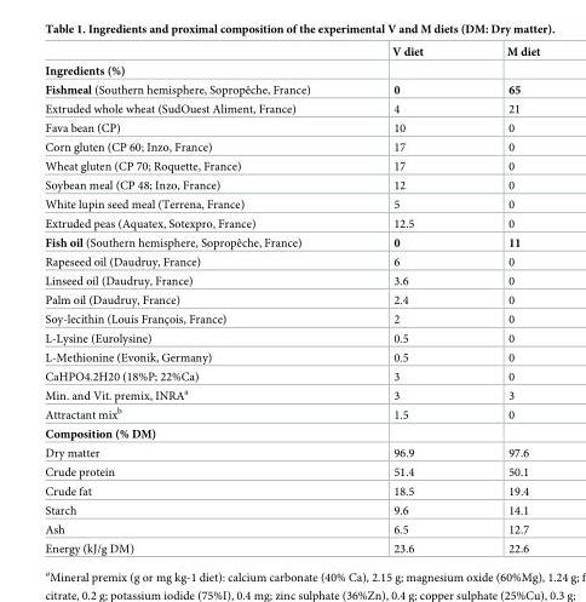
<table><thead><tr><td></td><td>V diet</td><td>M diet</td></tr></thead><tbody><tr><td colspan="3">Ingredients (%)</td></tr><tr><td>Fishmeal (Southern hemisphere, Sopropêche, France)</td><td>0</td><td>65</td></tr><tr><td>Extruded whole wheat (SudOuest Aliment, France)</td><td>4</td><td>21</td></tr><tr><td>Fava bean (CP)</td><td>10</td><td>0</td></tr><tr><td>Corn gluten (CP 60; Inzo, France)</td><td>17</td><td>0</td></tr><tr><td>Wheat gluten (CP 70; Roquette, France)</td><td>17</td><td>0</td></tr><tr><td>Soybean meal (CP 48; Inzo, France)</td><td>12</td><td>0</td></tr><tr><td>White lupin seed meal (Terrena, France)</td><td>5</td><td>0</td></tr><tr><td>Extruded peas (Aquatex, Sotexpro, France)</td><td>12.5</td><td>0</td></tr><tr><td>Fish oil (Southern hemisphere, Sopropêche, France)</td><td>0</td><td>11</td></tr><tr><td>Rapeseed oil (Daudruy, France)</td><td>6</td><td>0</td></tr><tr><td>Linseed oil (Daudruy, France)</td><td>3.6</td><td>0</td></tr><tr><td>Palm oil (Daudruy, France)</td><td>2.4</td><td>0</td></tr><tr><td>Soy-lecithin (Louis Franc¸ois, France)</td><td>2</td><td>0</td></tr><tr><td>L-Lysine (Eurolysine)</td><td>0.5</td><td>0</td></tr><tr><td>L-Methionine (Evonik, Germany)</td><td>0.5</td><td>0</td></tr><tr><td>CaHPO4.2H20 (18%P; 22%Ca)</td><td>3</td><td>0</td></tr><tr><td>Min. and Vit. premix, INRA<sup>a</sup></td><td>3</td><td>3</td></tr><tr><td>Attractant mix<sup>b</sup></td><td>1.5</td><td>0</td></tr><tr><td colspan="3">Composition (% DM)</td></tr><tr><td>Dry matter</td><td>96.9</td><td>97.6</td></tr><tr><td>Crude protein</td><td>51.4</td><td>50.1</td></tr><tr><td>Crude fat</td><td>18.5</td><td>19.4</td></tr><tr><td>Starch</td><td>9.6</td><td>14.1</td></tr><tr><td>Ash</td><td>6.5</td><td>12.7</td></tr><tr><td>Energy (kJ/g DM)</td><td>23.6</td><td>22.6</td></tr></tbody></table>